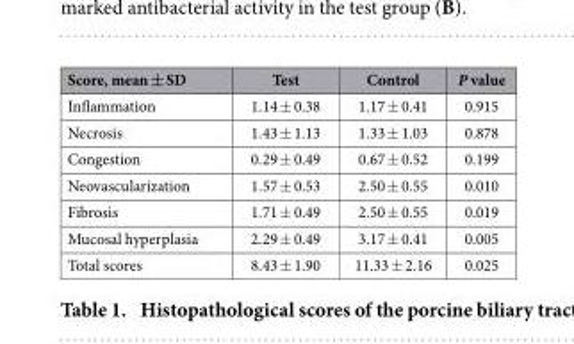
<table><thead><tr><td>Score, mean ± SD</td><td>Test</td><td>Control</td><td>P value</td></tr></thead><tbody><tr><td>Inflammation</td><td>1.14 ± 0.38</td><td>1.17 ± 0.41</td><td>0.915</td></tr><tr><td>Necrosis</td><td>1.43 ± 1.13</td><td>1.33 ± 1.03</td><td>0.878</td></tr><tr><td>Congestion</td><td>0.29 ± 0.49</td><td>0.67 ± 0.52</td><td>0.199</td></tr><tr><td>Neovascularization</td><td>1.57 ± 0.53</td><td>2.50 ± 0.55</td><td>0.010</td></tr><tr><td>Fibrosis</td><td>1.71 ± 0.49</td><td>2.50 ± 0.55</td><td>0.019</td></tr><tr><td>Mucosal hyperplasia</td><td>2.29 ± 0.49</td><td>3.17 ± 0.41</td><td>0.005</td></tr><tr><td>Total scores</td><td>8.43 ± 1.90</td><td>11.33 ± 2.16</td><td>0.025</td></tr></tbody></table>